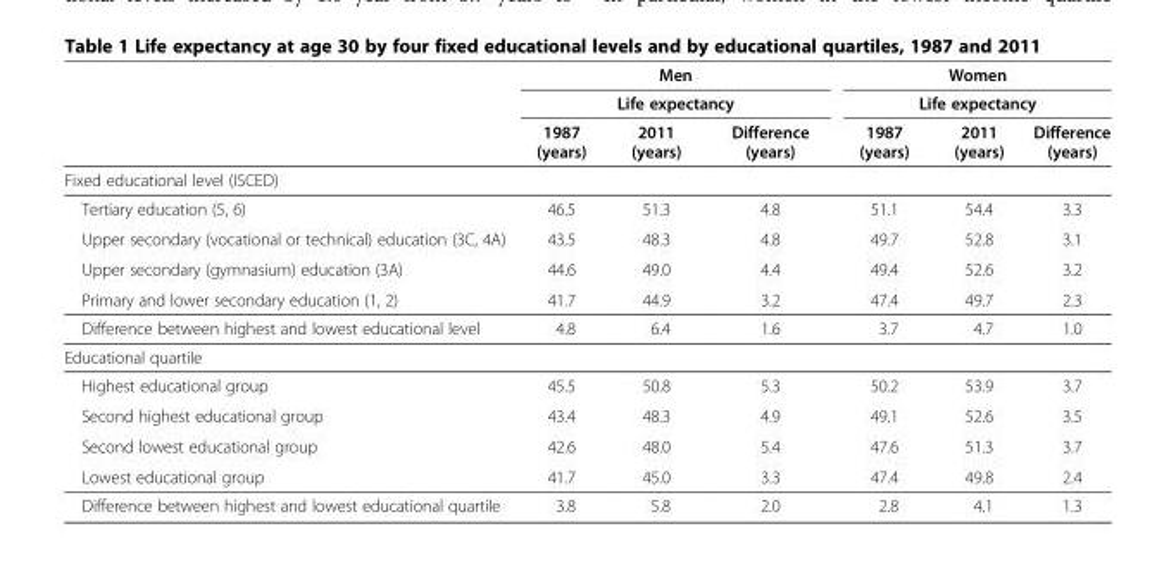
<table><thead><tr><td rowspan="3"></td><td rowspan="2" colspan="3">Men Life expectancy</td><td rowspan="2" colspan="3">Women Life expectancy</td></tr><tr></tr><tr><td>1987 (years)</td><td>2011 (years)</td><td>Difference (years)</td><td>1987 (years)</td><td>2011 (years)</td><td>Difference (years)</td></tr></thead><tbody><tr><td colspan="7">Fixed educational level (ISCED)</td></tr><tr><td>Tertiary education (5, 6)</td><td>46.5</td><td>51.3</td><td>4.8</td><td>51.1</td><td>54.4</td><td>3.3</td></tr><tr><td>Upper secondary (vocational or technical) education (3C, 4A)</td><td>43.5</td><td>48.3</td><td>4.8</td><td>49.7</td><td>52.8</td><td>3.1</td></tr><tr><td>Upper secondary (gymnasium) education (3A)</td><td>44.6</td><td>49.0</td><td>4.4</td><td>49.4</td><td>52.6</td><td>3.2</td></tr><tr><td>Primary and lower secondary education (1, 2)</td><td>41.7</td><td>44.9</td><td>3.2</td><td>47.4</td><td>49.7</td><td>2.3</td></tr><tr><td>Difference between highest and lowest educational level</td><td>4.8</td><td>6.4</td><td>1.6</td><td>3.7</td><td>4.7</td><td>1.0</td></tr><tr><td colspan="7">Educational quartile</td></tr><tr><td>Highest educational group</td><td>45.5</td><td>50.8</td><td>5.3</td><td>50.2</td><td>53.9</td><td>3.7</td></tr><tr><td>Second highest educational group</td><td>43.4</td><td>48.3</td><td>4.9</td><td>49.1</td><td>52.6</td><td>3.5</td></tr><tr><td>Second lowest educational group</td><td>42.6</td><td>48.0</td><td>5.4</td><td>47.6</td><td>51.3</td><td>3.7</td></tr><tr><td>Lowest educational group</td><td>41.7</td><td>45.0</td><td>3.3</td><td>47.4</td><td>49.8</td><td>2.4</td></tr><tr><td>Difference between highest and lowest educational quartile</td><td>3.8</td><td>5.8</td><td>2.0</td><td>2.8</td><td>4.1</td><td>1.3</td></tr></tbody></table>